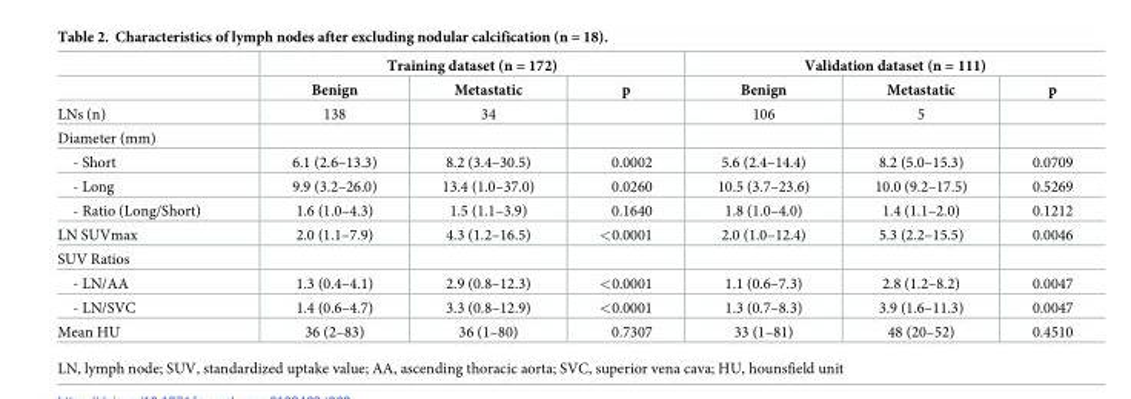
<table><thead><tr><td rowspan="2"></td><td colspan="3">Training dataset (n = 172)</td><td colspan="3">Validation dataset (n = 111)</td></tr><tr><td>Benign</td><td>Metastatic</td><td>p</td><td>Benign</td><td>Metastatic</td><td>p</td></tr></thead><tbody><tr><td>LNs (n)</td><td>138</td><td>34</td><td></td><td>106</td><td>5</td><td></td></tr><tr><td colspan="7">Diameter (mm)</td></tr><tr><td>- Short</td><td>6.1 (2.6–13.3)</td><td>8.2 (3.4–30.5)</td><td>0.0002</td><td>5.6 (2.4–14.4)</td><td>8.2 (5.0–15.3)</td><td>0.0709</td></tr><tr><td>- Long</td><td>9.9 (3.2–26.0)</td><td>13.4 (1.0–37.0)</td><td>0.0260</td><td>10.5 (3.7–23.6)</td><td>10.0 (9.2–17.5)</td><td>0.5269</td></tr><tr><td>- Ratio (Long/Short)</td><td>1.6 (1.0–4.3)</td><td>1.5 (1.1–3.9)</td><td>0.1640</td><td>1.8 (1.0–4.0)</td><td>1.4 (1.1–2.0)</td><td>0.1212</td></tr><tr><td>LN SUVmax</td><td>2.0 (1.1–7.9)</td><td>4.3 (1.2–16.5)</td><td>&lt;0.0001</td><td>2.0 (1.0–12.4)</td><td>5.3 (2.2–15.5)</td><td>0.0046</td></tr><tr><td colspan="7">SUV Ratios</td></tr><tr><td>- LN/AA</td><td>1.3 (0.4–4.1)</td><td>2.9 (0.8–12.3)</td><td>&lt;0.0001</td><td>1.1 (0.6–7.3)</td><td>2.8 (1.2–8.2)</td><td>0.0047</td></tr><tr><td>- LN/SVC</td><td>1.4 (0.6–4.7)</td><td>3.3 (0.8–12.9)</td><td>&lt;0.0001</td><td>1.3 (0.7–8.3)</td><td>3.9 (1.6–11.3)</td><td>0.0047</td></tr><tr><td>Mean HU</td><td>36 (2–83)</td><td>36 (1–80)</td><td>0.7307</td><td>33 (1–81)</td><td>48 (20–52)</td><td>0.4510</td></tr></tbody></table>